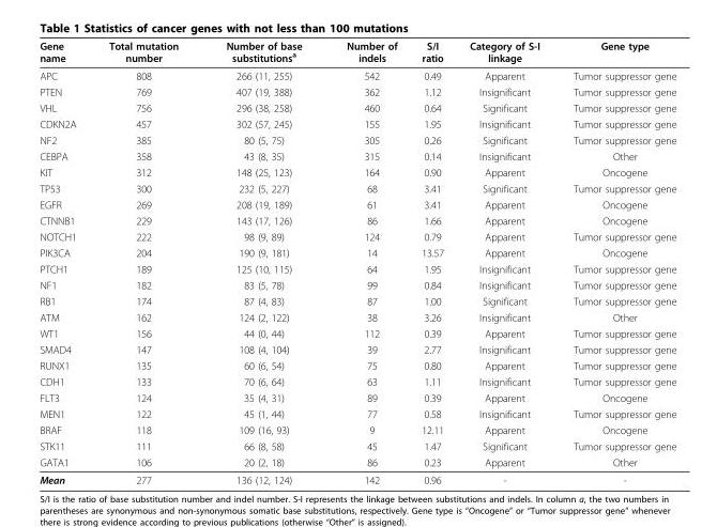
<table><thead><tr><td>Gene name</td><td>Total mutation number</td><td>Number of base substitutions<sup>a</sup></td><td>Number of indels</td><td>S/I ratio</td><td>Category of S-I linkage</td><td>Gene type</td></tr></thead><tbody><tr><td>APC</td><td>808</td><td>266 (11, 255)</td><td>542</td><td>0.49</td><td>Apparent</td><td>Tumor suppressor gene</td></tr><tr><td>PTEN</td><td>769</td><td>407 (19, 388)</td><td>362</td><td>1.12</td><td>Insignificant</td><td>Tumor suppressor gene</td></tr><tr><td>VHL</td><td>756</td><td>296 (38, 258)</td><td>460</td><td>0.64</td><td>Significant</td><td>Tumor suppressor gene</td></tr><tr><td>CDKN2A</td><td>457</td><td>302 (57, 245)</td><td>155</td><td>1.95</td><td>Insignificant</td><td>Tumor suppressor gene</td></tr><tr><td>NF2</td><td>385</td><td>80 (5, 75)</td><td>305</td><td>0.26</td><td>Significant</td><td>Tumor suppressor gene</td></tr><tr><td>CEBPA</td><td>358</td><td>43 (8, 35)</td><td>315</td><td>0.14</td><td>Insignificant</td><td>Other</td></tr><tr><td>KIT</td><td>312</td><td>148 (25, 123)</td><td>164</td><td>0.90</td><td>Apparent</td><td>Oncogene</td></tr><tr><td>TP53</td><td>300</td><td>232 (5, 227)</td><td>68</td><td>3.41</td><td>Significant</td><td>Tumor suppressor gene</td></tr><tr><td>EGFR</td><td>269</td><td>208 (19, 189)</td><td>61</td><td>3.41</td><td>Apparent</td><td>Oncogene</td></tr><tr><td>CTNNB1</td><td>229</td><td>143 (17, 126)</td><td>86</td><td>1.66</td><td>Apparent</td><td>Oncogene</td></tr><tr><td>NOTCH1</td><td>222</td><td>98 (9, 89)</td><td>124</td><td>0.79</td><td>Apparent</td><td>Tumor suppressor gene</td></tr><tr><td>PIK3CA</td><td>204</td><td>190 (9, 181)</td><td>14</td><td>13.57</td><td>Apparent</td><td>Oncogene</td></tr><tr><td>PTCH1</td><td>189</td><td>125 (10, 115)</td><td>64</td><td>1.95</td><td>Insignificant</td><td>Tumor suppressor gene</td></tr><tr><td>NF1</td><td>182</td><td>83 (5, 78)</td><td>99</td><td>0.84</td><td>Insignificant</td><td>Tumor suppressor gene</td></tr><tr><td>RB1</td><td>174</td><td>87 (4, 83)</td><td>87</td><td>1.00</td><td>Significant</td><td>Tumor suppressor gene</td></tr><tr><td>ATM</td><td>162</td><td>124 (2, 122)</td><td>38</td><td>3.26</td><td>Insignificant</td><td>Other</td></tr><tr><td>WT1</td><td>156</td><td>44 (0, 44)</td><td>112</td><td>0.39</td><td>Apparent</td><td>Tumor suppressor gene</td></tr><tr><td>SMAD4</td><td>147</td><td>108 (4, 104)</td><td>39</td><td>2.77</td><td>Insignificant</td><td>Tumor suppressor gene</td></tr><tr><td>RUNX1</td><td>135</td><td>60 (6, 54)</td><td>75</td><td>0.80</td><td>Apparent</td><td>Tumor suppressor gene</td></tr><tr><td>CDH1</td><td>133</td><td>70 (6, 64)</td><td>63</td><td>1.11</td><td>Insignificant</td><td>Tumor suppressor gene</td></tr><tr><td>FLT3</td><td>124</td><td>35 (4, 31)</td><td>89</td><td>0.39</td><td>Apparent</td><td>Oncogene</td></tr><tr><td>MEN1</td><td>122</td><td>45 (1, 44)</td><td>77</td><td>0.58</td><td>Insignificant</td><td>Tumor suppressor gene</td></tr><tr><td>BRAF</td><td>118</td><td>109 (16, 93)</td><td>9</td><td>12.11</td><td>Apparent</td><td>Oncogene</td></tr><tr><td>STK11</td><td>111</td><td>66 (8, 58)</td><td>45</td><td>1.47</td><td>Significant</td><td>Tumor suppressor gene</td></tr><tr><td>GATA1</td><td>106</td><td>20 (2, 18)</td><td>86</td><td>0.23</td><td>Apparent</td><td>Other</td></tr><tr><td>Mean</td><td>277</td><td>136 (12, 124)</td><td>142</td><td>0.96</td><td>-</td><td>-</td></tr></tbody></table>